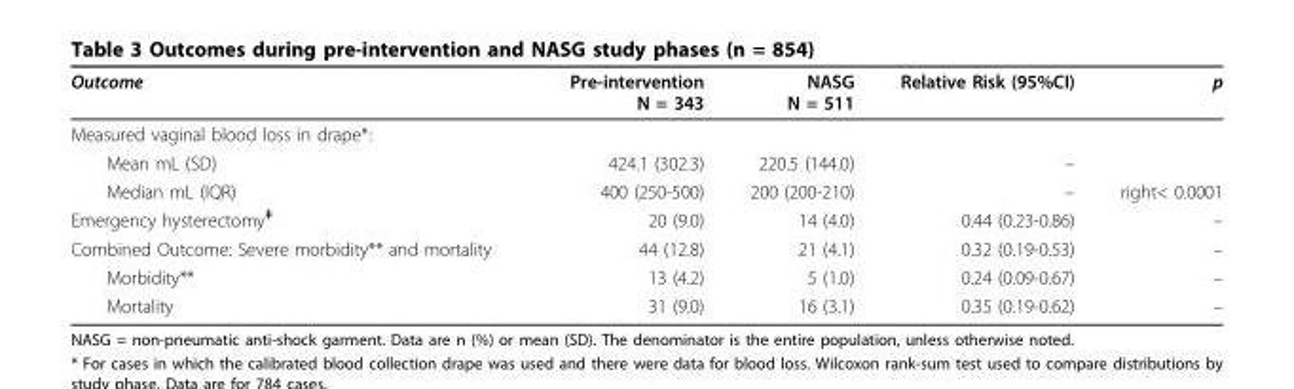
<table><thead><tr><td>Outcome</td><td>Pre-intervention N = 343</td><td>NASG N = 511</td><td>Relative Risk (95%CI)</td><td>p</td></tr></thead><tbody><tr><td colspan="5">Measured vaginal blood loss in drape*:</td></tr><tr><td>Mean mL (SD)</td><td>424.1 (302.3)</td><td>220.5 (144.0)</td><td>–</td><td></td></tr><tr><td>Median mL (IQR)</td><td>400 (250-500)</td><td>200 (200-210)</td><td>–</td><td>right&lt; 0.0001</td></tr><tr><td>Emergency hysterectomy<sup>‡</sup></td><td>20 (9.0)</td><td>14 (4.0)</td><td>0.44 (0.23-0.86)</td><td>–</td></tr><tr><td>Combined Outcome: Severe morbidity** and mortality</td><td>44 (12.8)</td><td>21 (4.1)</td><td>0.32 (0.19-0.53)</td><td>–</td></tr><tr><td>Morbidity**</td><td>13 (4.2)</td><td>5 (1.0)</td><td>0.24 (0.09-0.67)</td><td>–</td></tr><tr><td>Mortality</td><td>31 (9.0)</td><td>16 (3.1)</td><td>0.35 (0.19-0.62)</td><td>–</td></tr></tbody></table>